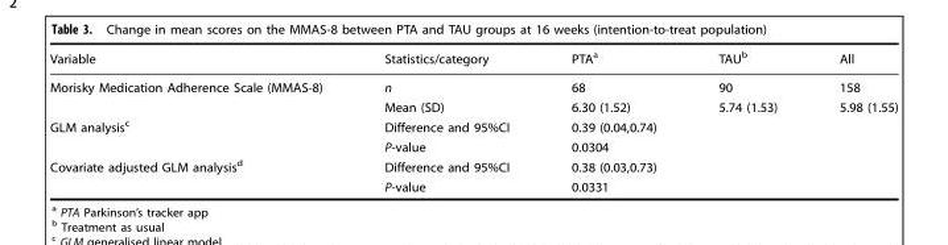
<table><thead><tr><td>Variable</td><td>Statistics/category</td><td>PTA<sup>a</sup></td><td>TAU<sup>b</sup></td><td>All</td></tr></thead><tbody><tr><td rowspan="2">Morisky Medication Adherence Scale (MMAS-8)</td><td>n</td><td>68</td><td>90</td><td>158</td></tr><tr><td>Mean (SD)</td><td>6.30 (1.52)</td><td>5.74 (1.53)</td><td>5.98 (1.55)</td></tr><tr><td rowspan="2">GLM analysis<sup>c</sup></td><td>Difference and 95%CI</td><td>0.39 (0.04,0.74)</td><td></td><td></td></tr><tr><td>P-value</td><td>0.0304</td><td></td><td></td></tr><tr><td rowspan="2">Covariate adjusted GLM analysis<sup>d</sup></td><td>Difference and 95%CI</td><td>0.38 (0.03,0.73)</td><td></td><td></td></tr><tr><td>P-value</td><td>0.0331</td><td></td><td></td></tr></tbody></table>